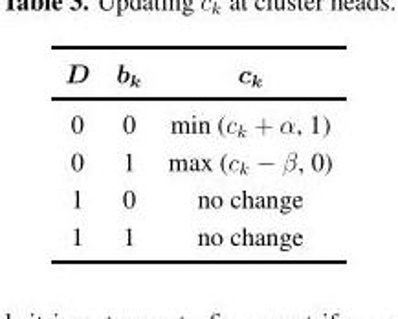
<table><thead><tr><td>D</td><td>b<sub>k</sub></td><td>c<sub>k</sub></td></tr></thead><tbody><tr><td>0</td><td>0</td><td>min (c<sub>k</sub> + α, 1)</td></tr><tr><td>0</td><td>1</td><td>max (c<sub>k</sub> − β, 0)</td></tr><tr><td>1</td><td>0</td><td>no change</td></tr><tr><td>1</td><td>1</td><td>no change</td></tr></tbody></table>